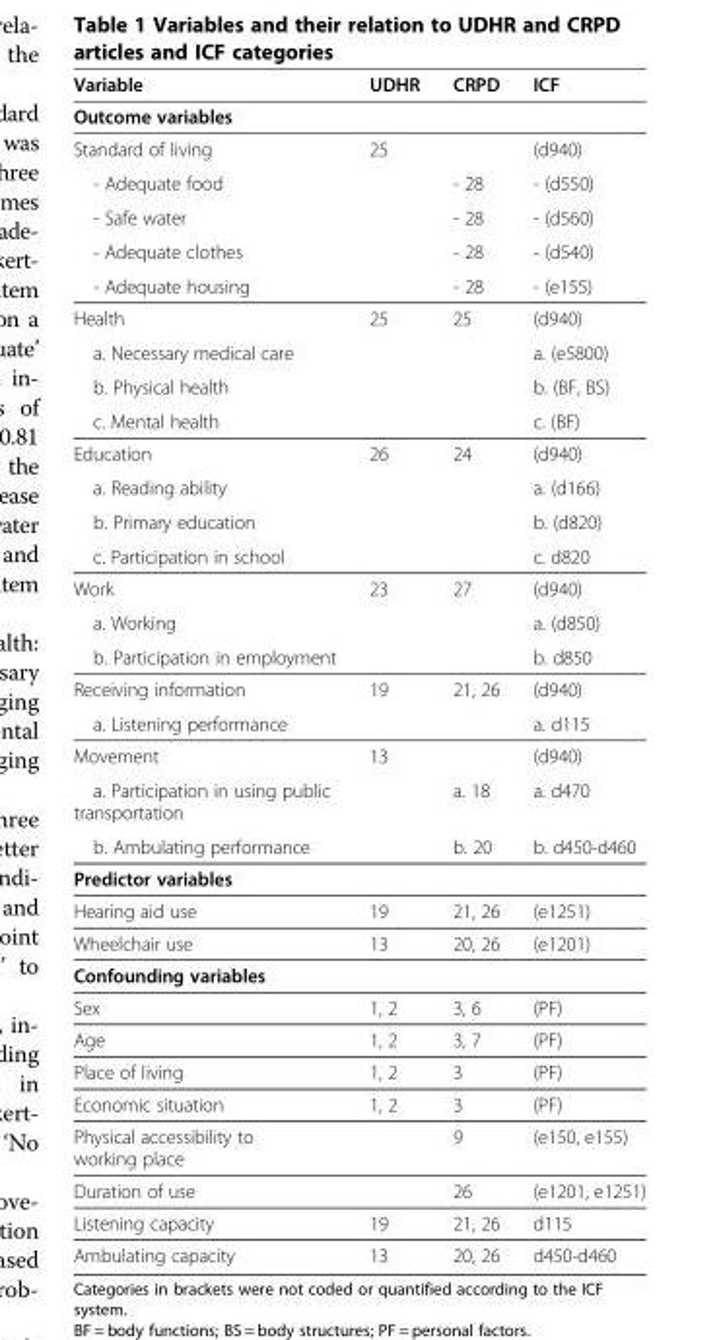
<table><thead><tr><td>Variable</td><td>UDHR</td><td>CRPD</td><td>ICF</td></tr></thead><tbody><tr><td colspan="4">Outcome variables</td></tr><tr><td>Standard of living</td><td>25</td><td></td><td>(d940)</td></tr><tr><td>- Adequate food</td><td></td><td>- 28</td><td>- (d550)</td></tr><tr><td>- Safe water</td><td></td><td>- 28</td><td>- (d560)</td></tr><tr><td>- Adequate clothes</td><td></td><td>- 28</td><td>- (d540)</td></tr><tr><td>- Adequate housing</td><td></td><td>- 28</td><td>- (e155)</td></tr><tr><td>Health</td><td>25</td><td>25</td><td>(d940)</td></tr><tr><td>a. Necessary medical care</td><td></td><td></td><td>a. (e5800)</td></tr><tr><td>b. Physical health</td><td></td><td></td><td>b. (BF, BS)</td></tr><tr><td>c. Mental health</td><td></td><td></td><td>c. (BF)</td></tr><tr><td>Education</td><td>26</td><td>24</td><td>(d940)</td></tr><tr><td>a. Reading ability</td><td></td><td></td><td>a. (d166)</td></tr><tr><td>b. Primary education</td><td></td><td></td><td>b. (d820)</td></tr><tr><td>c. Participation in school</td><td></td><td></td><td>c. d820</td></tr><tr><td>Work</td><td>23</td><td>27</td><td>(d940)</td></tr><tr><td>a. Working</td><td></td><td></td><td>a. (d850)</td></tr><tr><td>b. Participation in employment</td><td></td><td></td><td>b. d850</td></tr><tr><td>Receiving information</td><td>19</td><td>21, 26</td><td>(d940)</td></tr><tr><td>a. Listening performance</td><td></td><td></td><td>a. d115</td></tr><tr><td>Movement</td><td>13</td><td></td><td>(d940)</td></tr><tr><td>a. Participation in using public transportation</td><td></td><td>a. 18</td><td>a. d470</td></tr><tr><td>b. Ambulating performance</td><td></td><td>b. 20</td><td>b. d450-d460</td></tr><tr><td colspan="4">Predictor variables</td></tr><tr><td>Hearing aid use</td><td>19</td><td>21, 26</td><td>(e1251)</td></tr><tr><td>Wheelchair use</td><td>13</td><td>20, 26</td><td>(e1201)</td></tr><tr><td colspan="4">Confounding variables</td></tr><tr><td>Sex</td><td>1, 2</td><td>3, 6</td><td>(PF)</td></tr><tr><td>Age</td><td>1, 2</td><td>3, 7</td><td>(PF)</td></tr><tr><td>Place of living</td><td>1, 2</td><td>3</td><td>(PF)</td></tr><tr><td>Economic situation</td><td>1, 2</td><td>3</td><td>(PF)</td></tr><tr><td>Physical accessibility to working place</td><td></td><td>9</td><td>(e150, e155)</td></tr><tr><td>Duration of use</td><td></td><td>26</td><td>(e1201, e1251)</td></tr><tr><td>Listening capacity</td><td>19</td><td>21, 26</td><td>d115</td></tr><tr><td>Ambulating capacity</td><td>13</td><td>20, 26</td><td>d450-d460</td></tr></tbody></table>